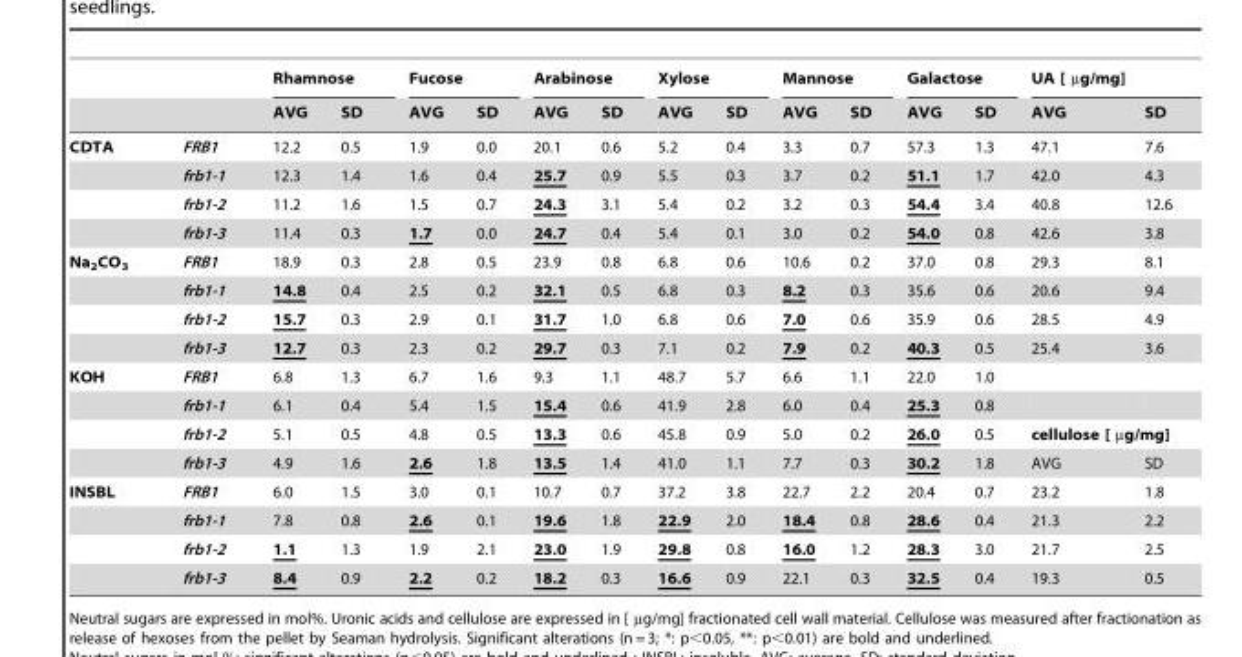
<table><thead><tr><td rowspan="2"></td><td rowspan="2"></td><td colspan="2">Rhamnose</td><td colspan="2">Fucose</td><td colspan="2">Arabinose</td><td colspan="2">Xylose</td><td colspan="2">Mannose</td><td colspan="2">Galactose</td><td colspan="2">UA [ µg/mg]</td></tr><tr><td>AVG</td><td>SD</td><td>AVG</td><td>SD</td><td>AVG</td><td>SD</td><td>AVG</td><td>SD</td><td>AVG</td><td>SD</td><td>AVG</td><td>SD</td><td>AVG</td><td>SD</td></tr></thead><tbody><tr><td rowspan="4">CDTA</td><td>FRB1</td><td>12.2</td><td>0.5</td><td>1.9</td><td>0.0</td><td>20.1</td><td>0.6</td><td>5.2</td><td>0.4</td><td>3.3</td><td>0.7</td><td>57.3</td><td>1.3</td><td>47.1</td><td>7.6</td></tr><tr><td>frb1-1</td><td>12.3</td><td>1.4</td><td>1.6</td><td>0.4</td><td>25.7</td><td>0.9</td><td>5.5</td><td>0.3</td><td>3.7</td><td>0.2</td><td>51.1</td><td>1.7</td><td>42.0</td><td>4.3</td></tr><tr><td>frb1-2</td><td>11.2</td><td>1.6</td><td>1.5</td><td>0.7</td><td>24.3</td><td>3.1</td><td>5.4</td><td>0.2</td><td>3.2</td><td>0.3</td><td>54.4</td><td>3.4</td><td>40.8</td><td>12.6</td></tr><tr><td>frb1-3</td><td>11.4</td><td>0.3</td><td>1.7</td><td>0.0</td><td>24.7</td><td>0.4</td><td>5.4</td><td>0.1</td><td>3.0</td><td>0.2</td><td>54.0</td><td>0.8</td><td>42.6</td><td>3.8</td></tr><tr><td rowspan="4">Na<sub>2</sub>CO<sub>3</sub></td><td>FRB1</td><td>18.9</td><td>0.3</td><td>2.8</td><td>0.5</td><td>23.9</td><td>0.8</td><td>6.8</td><td>0.6</td><td>10.6</td><td>0.2</td><td>37.0</td><td>0.8</td><td>29.3</td><td>8.1</td></tr><tr><td>frb1-1</td><td>14.8</td><td>0.4</td><td>2.5</td><td>0.2</td><td>32.1</td><td>0.5</td><td>6.8</td><td>0.3</td><td>8.2</td><td>0.3</td><td>35.6</td><td>0.6</td><td>20.6</td><td>9.4</td></tr><tr><td>frb1-2</td><td>15.7</td><td>0.3</td><td>2.9</td><td>0.1</td><td>31.7</td><td>1.0</td><td>6.8</td><td>0.6</td><td>7.0</td><td>0.6</td><td>35.9</td><td>0.6</td><td>28.5</td><td>4.9</td></tr><tr><td>frb1-3</td><td>12.7</td><td>0.3</td><td>2.3</td><td>0.2</td><td>29.7</td><td>0.3</td><td>7.1</td><td>0.2</td><td>7.9</td><td>0.2</td><td>40.3</td><td>0.5</td><td>25.4</td><td>3.6</td></tr><tr><td rowspan="4">KOH</td><td>FRB1</td><td>6.8</td><td>1.3</td><td>6.7</td><td>1.6</td><td>9.3</td><td>1.1</td><td>48.7</td><td>5.7</td><td>6.6</td><td>1.1</td><td>22.0</td><td>1.0</td><td></td><td></td></tr><tr><td>frb1-1</td><td>6.1</td><td>0.4</td><td>5.4</td><td>1.5</td><td>15.4</td><td>0.6</td><td>41.9</td><td>2.8</td><td>6.0</td><td>0.4</td><td>25.3</td><td>0.8</td><td></td><td></td></tr><tr><td>frb1-2</td><td>5.1</td><td>0.5</td><td>4.8</td><td>0.5</td><td>13.3</td><td>0.6</td><td>45.8</td><td>0.9</td><td>5.0</td><td>0.2</td><td>26.0</td><td>0.5</td><td colspan="2">cellulose [ µg/mg]</td></tr><tr><td>frb1-3</td><td>4.9</td><td>1.6</td><td>2.6</td><td>1.8</td><td>13.5</td><td>1.4</td><td>41.0</td><td>1.1</td><td>7.7</td><td>0.3</td><td>30.2</td><td>1.8</td><td>AVG</td><td>SD</td></tr><tr><td rowspan="4">INSBL</td><td>FRB1</td><td>6.0</td><td>1.5</td><td>3.0</td><td>0.1</td><td>10.7</td><td>0.7</td><td>37.2</td><td>3.8</td><td>22.7</td><td>2.2</td><td>20.4</td><td>0.7</td><td>23.2</td><td>1.8</td></tr><tr><td>frb1-1</td><td>7.8</td><td>0.8</td><td>2.6</td><td>0.1</td><td>19.6</td><td>1.8</td><td>22.9</td><td>2.0</td><td>18.4</td><td>0.8</td><td>28.6</td><td>0.4</td><td>21.3</td><td>2.2</td></tr><tr><td>frb1-2</td><td>1.1</td><td>1.3</td><td>1.9</td><td>2.1</td><td>23.0</td><td>1.9</td><td>29.8</td><td>0.8</td><td>16.0</td><td>1.2</td><td>28.3</td><td>3.0</td><td>21.7</td><td>2.5</td></tr><tr><td>frb1-3</td><td>8.4</td><td>0.9</td><td>2.2</td><td>0.2</td><td>18.2</td><td>0.3</td><td>16.6</td><td>0.9</td><td>22.1</td><td>0.3</td><td>32.5</td><td>0.4</td><td>19.3</td><td>0.5</td></tr></tbody></table>